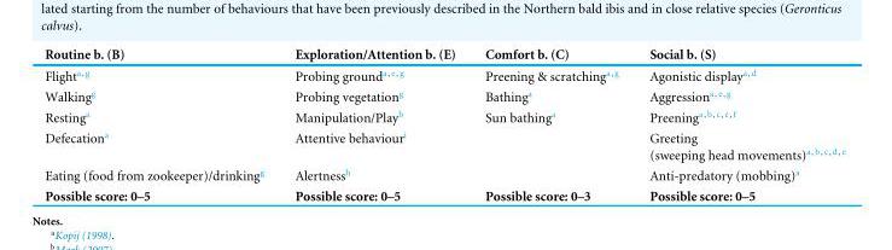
<table><thead><tr><td>Routine b. (B)</td><td>Exploration/Attention b. (E)</td><td>Comfort b. (C)</td><td>Social b. (S)</td></tr></thead><tbody><tr><td>Flight<sup>a,g</sup></td><td>Probing ground<sup>a,e,g</sup></td><td>Preening &amp; scratching<sup>a,g</sup></td><td>Agonistic display<sup>a,d</sup></td></tr><tr><td>Walking<sup>g</sup></td><td>Probing vegetation<sup>g</sup></td><td>Bathing<sup>a</sup></td><td>Aggression<sup>a,e,g</sup></td></tr><tr><td>Resting<sup>a</sup></td><td>Manipulation/Play<sup>b</sup></td><td>Sun bathing<sup>a</sup></td><td>Preening<sup>a,b,c,e,f</sup></td></tr><tr><td>Defecation<sup>a</sup></td><td>Attentive behaviour<sup>i</sup></td><td></td><td>Greeting (sweeping head movements)<sup>a,b,c,d,e</sup></td></tr><tr><td>Eating (food from zookeeper)/drinking<sup>g</sup></td><td>Alertness<sup>h</sup></td><td></td><td>Anti-predatory (mobbing)<sup>a</sup></td></tr><tr><td>Possible score: 0–5</td><td>Possible score: 0–5</td><td>Possible score: 0–3</td><td>Possible score: 0–5</td></tr></tbody></table>